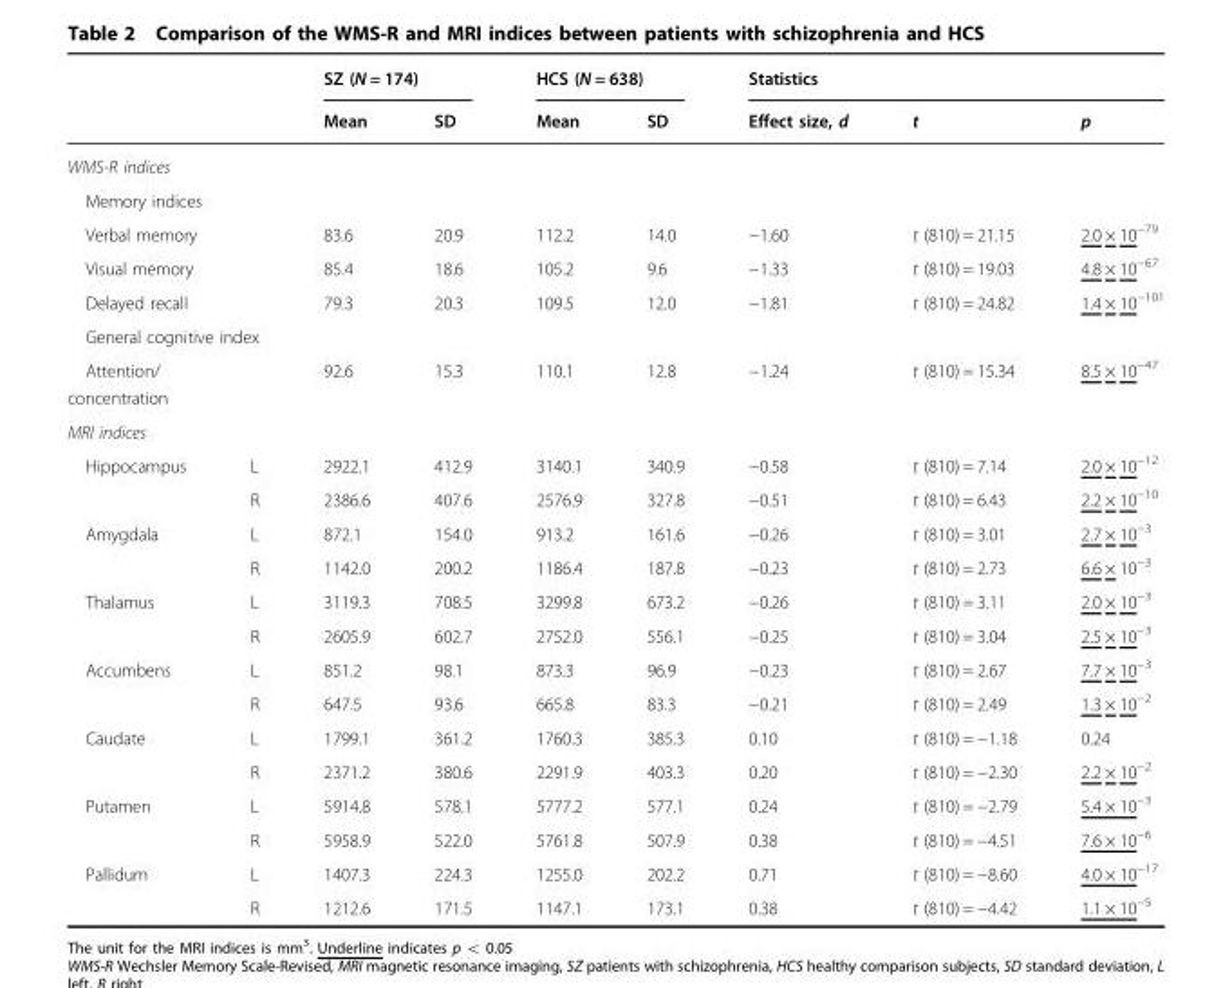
<table><thead><tr><td rowspan="2"></td><td rowspan="2"></td><td colspan="2">SZ (N = 174)</td><td colspan="2">HCS (N = 638)</td><td colspan="3">Statistics</td></tr><tr><td>Mean</td><td>SD</td><td>Mean</td><td>SD</td><td>Effect size, d</td><td>t</td><td>p</td></tr></thead><tbody><tr><td colspan="9">WMS-R indices</td></tr><tr><td colspan="9">Memory indices</td></tr><tr><td colspan="2">Verbal memory</td><td>83.6</td><td>20.9</td><td>112.2</td><td>14.0</td><td>−1.60</td><td>t (810) = 21.15</td><td>2.0 × 10<sup>−79</sup></td></tr><tr><td colspan="2">Visual memory</td><td>85.4</td><td>18.6</td><td>105.2</td><td>9.6</td><td>−1.33</td><td>t (810) = 19.03</td><td>4.8 × 10<sup>−67</sup></td></tr><tr><td colspan="2">Delayed recall</td><td>79.3</td><td>20.3</td><td>109.5</td><td>12.0</td><td>−1.81</td><td>t (810) = 24.82</td><td>1.4 × 10<sup>−101</sup></td></tr><tr><td colspan="9">General cognitive index</td></tr><tr><td colspan="2">Attention/ concentration</td><td>92.6</td><td>15.3</td><td>110.1</td><td>12.8</td><td>−1.24</td><td>t (810) = 15.34</td><td>8.5 × 10<sup>−47</sup></td></tr><tr><td colspan="9">MRI indices</td></tr><tr><td rowspan="2">Hippocampus</td><td>L</td><td>2922.1</td><td>412.9</td><td>3140.1</td><td>340.9</td><td>−0.58</td><td>t (810) = 7.14</td><td>2.0 × 10<sup>−12</sup></td></tr><tr><td>R</td><td>2386.6</td><td>407.6</td><td>2576.9</td><td>327.8</td><td>−0.51</td><td>t (810) = 6.43</td><td>2.2 × 10<sup>−10</sup></td></tr><tr><td rowspan="2">Amygdala</td><td>L</td><td>872.1</td><td>154.0</td><td>913.2</td><td>161.6</td><td>−0.26</td><td>t (810) = 3.01</td><td>2.7 × 10<sup>−3</sup></td></tr><tr><td>R</td><td>1142.0</td><td>200.2</td><td>1186.4</td><td>187.8</td><td>−0.23</td><td>t (810) = 2.73</td><td>6.6 × 10<sup>−3</sup></td></tr><tr><td rowspan="2">Thalamus</td><td>L</td><td>3119.3</td><td>708.5</td><td>3299.8</td><td>673.2</td><td>−0.26</td><td>t (810) = 3.11</td><td>2.0 × 10<sup>−3</sup></td></tr><tr><td>R</td><td>2605.9</td><td>602.7</td><td>2752.0</td><td>556.1</td><td>−0.25</td><td>t (810) = 3.04</td><td>2.5 × 10<sup>−3</sup></td></tr><tr><td rowspan="2">Accumbens</td><td>L</td><td>851.2</td><td>98.1</td><td>873.3</td><td>96.9</td><td>−0.23</td><td>t (810) = 2.67</td><td>7.7 × 10<sup>−3</sup></td></tr><tr><td>R</td><td>647.5</td><td>93.6</td><td>665.8</td><td>83.3</td><td>−0.21</td><td>t (810) = 2.49</td><td>1.3 × 10<sup>−2</sup></td></tr><tr><td rowspan="2">Caudate</td><td>L</td><td>1799.1</td><td>361.2</td><td>1760.3</td><td>385.3</td><td>0.10</td><td>t (810) = −1.18</td><td>0.24</td></tr><tr><td>R</td><td>2371.2</td><td>380.6</td><td>2291.9</td><td>403.3</td><td>0.20</td><td>t (810) = −2.30</td><td>2.2 × 10<sup>−2</sup></td></tr><tr><td rowspan="2">Putamen</td><td>L</td><td>5914.8</td><td>578.1</td><td>5777.2</td><td>577.1</td><td>0.24</td><td>t (810) = −2.79</td><td>5.4 × 10<sup>−3</sup></td></tr><tr><td>R</td><td>5958.9</td><td>522.0</td><td>5761.8</td><td>507.9</td><td>0.38</td><td>t (810) = −4.51</td><td>7.6 × 10<sup>−6</sup></td></tr><tr><td rowspan="2">Pallidum</td><td>L</td><td>1407.3</td><td>224.3</td><td>1255.0</td><td>202.2</td><td>0.71</td><td>t (810) = −8.60</td><td>4.0 × 10<sup>−17</sup></td></tr><tr><td>R</td><td>1212.6</td><td>171.5</td><td>1147.1</td><td>173.1</td><td>0.38</td><td>t (810) = −4.42</td><td>1.1 × 10<sup>−5</sup></td></tr></tbody></table>